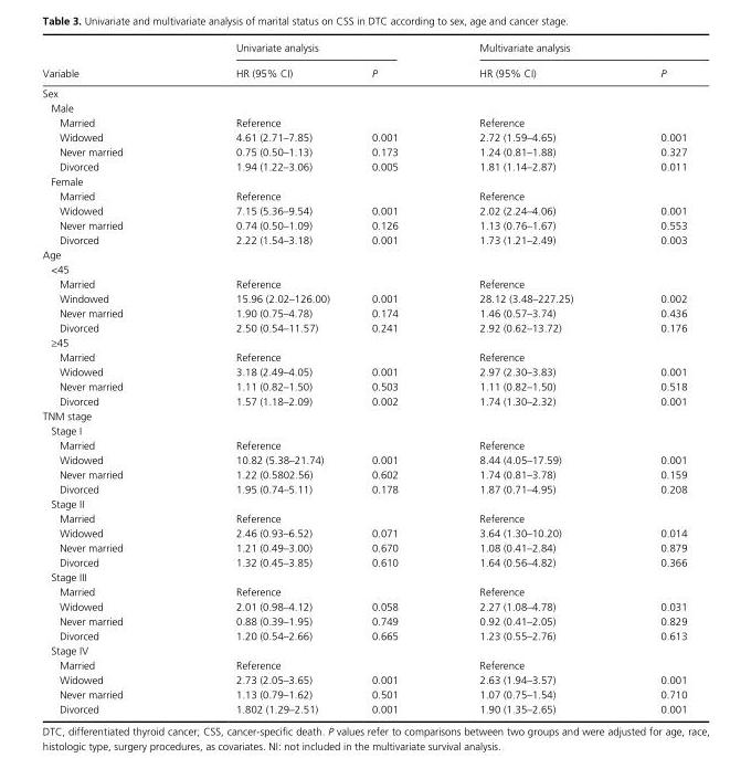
<table><thead><tr><td rowspan="2">Variable</td><td colspan="2">Univariate analysis</td><td colspan="2">Multivariate analysis</td></tr><tr><td>HR (95% CI)</td><td>P</td><td>HR (95% CI)</td><td>P</td></tr></thead><tbody><tr><td colspan="5">Sex</td></tr><tr><td colspan="5">Male</td></tr><tr><td>Married</td><td>Reference</td><td></td><td>Reference</td><td></td></tr><tr><td>Widowed</td><td>4.61 (2.71–7.85)</td><td>0.001</td><td>2.72 (1.59–4.65)</td><td>0.001</td></tr><tr><td>Never married</td><td>0.75 (0.50–1.13)</td><td>0.173</td><td>1.24 (0.81–1.88)</td><td>0.327</td></tr><tr><td>Divorced</td><td>1.94 (1.22–3.06)</td><td>0.005</td><td>1.81 (1.14–2.87)</td><td>0.011</td></tr><tr><td colspan="5">Female</td></tr><tr><td>Married</td><td>Reference</td><td></td><td>Reference</td><td></td></tr><tr><td>Widowed</td><td>7.15 (5.36–9.54)</td><td>0.001</td><td>2.02 (2.24–4.06)</td><td>0.001</td></tr><tr><td>Never married</td><td>0.74 (0.50–1.09)</td><td>0.126</td><td>1.13 (0.76–1.67)</td><td>0.553</td></tr><tr><td>Divorced</td><td>2.22 (1.54–3.18)</td><td>0.001</td><td>1.73 (1.21–2.49)</td><td>0.003</td></tr><tr><td colspan="5">Age</td></tr><tr><td colspan="5">&lt;45</td></tr><tr><td>Married</td><td>Reference</td><td></td><td>Reference</td><td></td></tr><tr><td>Windowed</td><td>15.96 (2.02–126.00)</td><td>0.001</td><td>28.12 (3.48–227.25)</td><td>0.002</td></tr><tr><td>Never married</td><td>1.90 (0.75–4.78)</td><td>0.174</td><td>1.46 (0.57–3.74)</td><td>0.436</td></tr><tr><td>Divorced</td><td>2.50 (0.54–11.57)</td><td>0.241</td><td>2.92 (0.62–13.72)</td><td>0.176</td></tr><tr><td colspan="5">≥45</td></tr><tr><td>Married</td><td>Reference</td><td></td><td>Reference</td><td></td></tr><tr><td>Widowed</td><td>3.18 (2.49–4.05)</td><td>0.001</td><td>2.97 (2.30–3.83)</td><td>0.001</td></tr><tr><td>Never married</td><td>1.11 (0.82–1.50)</td><td>0.503</td><td>1.11 (0.82–1.50)</td><td>0.518</td></tr><tr><td>Divorced</td><td>1.57 (1.18–2.09)</td><td>0.002</td><td>1.74 (1.30–2.32)</td><td>0.001</td></tr><tr><td colspan="5">TNM stage</td></tr><tr><td colspan="5">Stage I</td></tr><tr><td>Married</td><td>Reference</td><td></td><td>Reference</td><td></td></tr><tr><td>Widowed</td><td>10.82 (5.38–21.74)</td><td>0.001</td><td>8.44 (4.05–17.59)</td><td>0.001</td></tr><tr><td>Never married</td><td>1.22 (0.5802.56)</td><td>0.602</td><td>1.74 (0.81–3.78)</td><td>0.159</td></tr><tr><td>Divorced</td><td>1.95 (0.74–5.11)</td><td>0.178</td><td>1.87 (0.71–4.95)</td><td>0.208</td></tr><tr><td colspan="5">Stage II</td></tr><tr><td>Married</td><td>Reference</td><td></td><td>Reference</td><td></td></tr><tr><td>Widowed</td><td>2.46 (0.93–6.52)</td><td>0.071</td><td>3.64 (1.30–10.20)</td><td>0.014</td></tr><tr><td>Never married</td><td>1.21 (0.49–3.00)</td><td>0.670</td><td>1.08 (0.41–2.84)</td><td>0.879</td></tr><tr><td>Divorced</td><td>1.32 (0.45–3.85)</td><td>0.610</td><td>1.64 (0.56–4.82)</td><td>0.366</td></tr><tr><td colspan="5">Stage III</td></tr><tr><td>Married</td><td>Reference</td><td></td><td>Reference</td><td></td></tr><tr><td>Widowed</td><td>2.01 (0.98–4.12)</td><td>0.058</td><td>2.27 (1.08–4.78)</td><td>0.031</td></tr><tr><td>Never married</td><td>0.88 (0.39–1.95)</td><td>0.749</td><td>0.92 (0.41–2.05)</td><td>0.829</td></tr><tr><td>Divorced</td><td>1.20 (0.54–2.66)</td><td>0.665</td><td>1.23 (0.55–2.76)</td><td>0.613</td></tr><tr><td colspan="5">Stage IV</td></tr><tr><td>Married</td><td>Reference</td><td></td><td>Reference</td><td></td></tr><tr><td>Widowed</td><td>2.73 (2.05–3.65)</td><td>0.001</td><td>2.63 (1.94–3.57)</td><td>0.001</td></tr><tr><td>Never married</td><td>1.13 (0.79–1.62)</td><td>0.501</td><td>1.07 (0.75–1.54)</td><td>0.710</td></tr><tr><td>Divorced</td><td>1.802 (1.29–2.51)</td><td>0.001</td><td>1.90 (1.35–2.65)</td><td>0.001</td></tr></tbody></table>